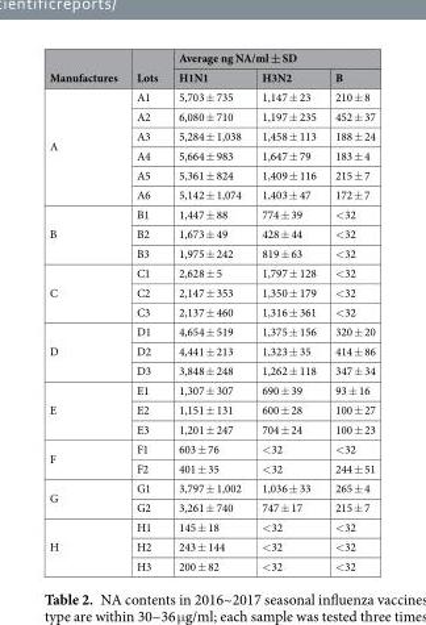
<table><thead><tr><td rowspan="2">Manufactures</td><td rowspan="2">Lots</td><td colspan="3">Average ng NA/ml ± SD</td></tr><tr><td>H1N1</td><td>H3N2</td><td>B</td></tr></thead><tbody><tr><td rowspan="6">A</td><td>A1</td><td>5,703 ± 735</td><td>1,147 ± 23</td><td>210 ± 8</td></tr><tr><td>A2</td><td>6,080 ± 710</td><td>1,197 ± 235</td><td>452 ± 37</td></tr><tr><td>A3</td><td>5,284 ± 1,038</td><td>1,458 ± 113</td><td>188 ± 24</td></tr><tr><td>A4</td><td>5,664 ± 983</td><td>1,647 ± 79</td><td>183 ± 4</td></tr><tr><td>A5</td><td>5,361 ± 824</td><td>1,409 ± 116</td><td>215 ± 7</td></tr><tr><td>A6</td><td>5,142 ± 1,074</td><td>1,403 ± 47</td><td>172 ± 7</td></tr><tr><td rowspan="3">B</td><td>B1</td><td>1,447 ± 88</td><td>774 ± 39</td><td>&lt;32</td></tr><tr><td>B2</td><td>1,673 ± 49</td><td>428 ± 44</td><td>&lt;32</td></tr><tr><td>B3</td><td>1,975 ± 242</td><td>819 ± 63</td><td>&lt;32</td></tr><tr><td rowspan="3">C</td><td>C1</td><td>2,628 ± 5</td><td>1,797 ± 128</td><td>&lt;32</td></tr><tr><td>C2</td><td>2,147 ± 353</td><td>1,350 ± 179</td><td>&lt;32</td></tr><tr><td>C3</td><td>2,137 ± 460</td><td>1,316 ± 361</td><td>&lt;32</td></tr><tr><td rowspan="3">D</td><td>D1</td><td>4,654 ± 519</td><td>1,375 ± 156</td><td>320 ± 20</td></tr><tr><td>D2</td><td>4,441 ± 213</td><td>1,323 ± 35</td><td>414 ± 86</td></tr><tr><td>D3</td><td>3,848 ± 248</td><td>1,262 ± 118</td><td>347 ± 34</td></tr><tr><td rowspan="3">E</td><td>E1</td><td>1,307 ± 307</td><td>690 ± 39</td><td>93 ± 16</td></tr><tr><td>E2</td><td>1,151 ± 131</td><td>600 ± 28</td><td>100 ± 27</td></tr><tr><td>E3</td><td>1,201 ± 247</td><td>704 ± 24</td><td>100 ± 23</td></tr><tr><td rowspan="2">F</td><td>F1</td><td>603 ± 76</td><td>&lt;32</td><td>&lt;32</td></tr><tr><td>F2</td><td>401 ± 35</td><td>&lt;32</td><td>244 ± 51</td></tr><tr><td rowspan="2">G</td><td>G1</td><td>3,797 ± 1,002</td><td>1,036 ± 33</td><td>265 ± 4</td></tr><tr><td>G2</td><td>3,261 ± 740</td><td>747 ± 17</td><td>215 ± 7</td></tr><tr><td rowspan="3">H</td><td>H1</td><td>145 ± 18</td><td>&lt;32</td><td>&lt;32</td></tr><tr><td>H2</td><td>243 ± 144</td><td>&lt;32</td><td>&lt;32</td></tr><tr><td>H3</td><td>200 ± 82</td><td>&lt;32</td><td>&lt;32</td></tr></tbody></table>